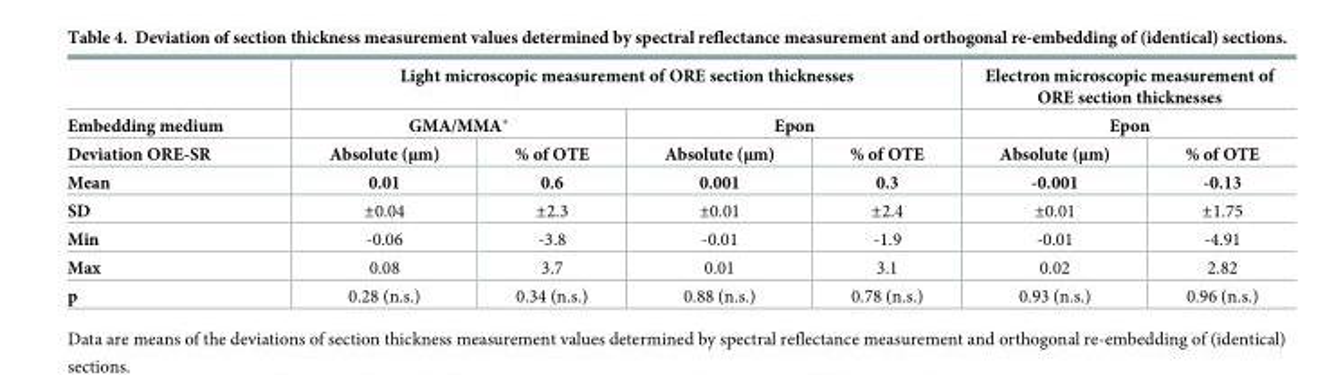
<table><thead><tr><td rowspan="3">Embedding medium Deviation ORE-SR</td><td colspan="4">Light microscopic measurement of ORE section thicknesses</td><td rowspan="2" colspan="2">Electron microscopic measurement of ORE section thicknesses Epon</td></tr><tr><td colspan="2">GMA/MMA*</td><td colspan="2">Epon</td></tr><tr><td>Absolute (μm)</td><td>% of OTE</td><td>Absolute (μm)</td><td>% of OTE</td><td>Absolute (μm)</td><td>% of OTE</td></tr></thead><tbody><tr><td>Mean</td><td>0.01</td><td>0.6</td><td>0.001</td><td>0.3</td><td>-0.001</td><td>-0.13</td></tr><tr><td>SD</td><td>±0.04</td><td>±2.3</td><td>±0.01</td><td>±2.4</td><td>±0.01</td><td>±1.75</td></tr><tr><td>Min</td><td>-0.06</td><td>-3.8</td><td>-0.01</td><td>-1.9</td><td>-0.01</td><td>-4.91</td></tr><tr><td>Max</td><td>0.08</td><td>3.7</td><td>0.01</td><td>3.1</td><td>0.02</td><td>2.82</td></tr><tr><td>p</td><td>0.28 (n.s.)</td><td>0.34 (n.s.)</td><td>0.88 (n.s.)</td><td>0.78 (n.s.)</td><td>0.93 (n.s.)</td><td>0.96 (n.s.)</td></tr></tbody></table>